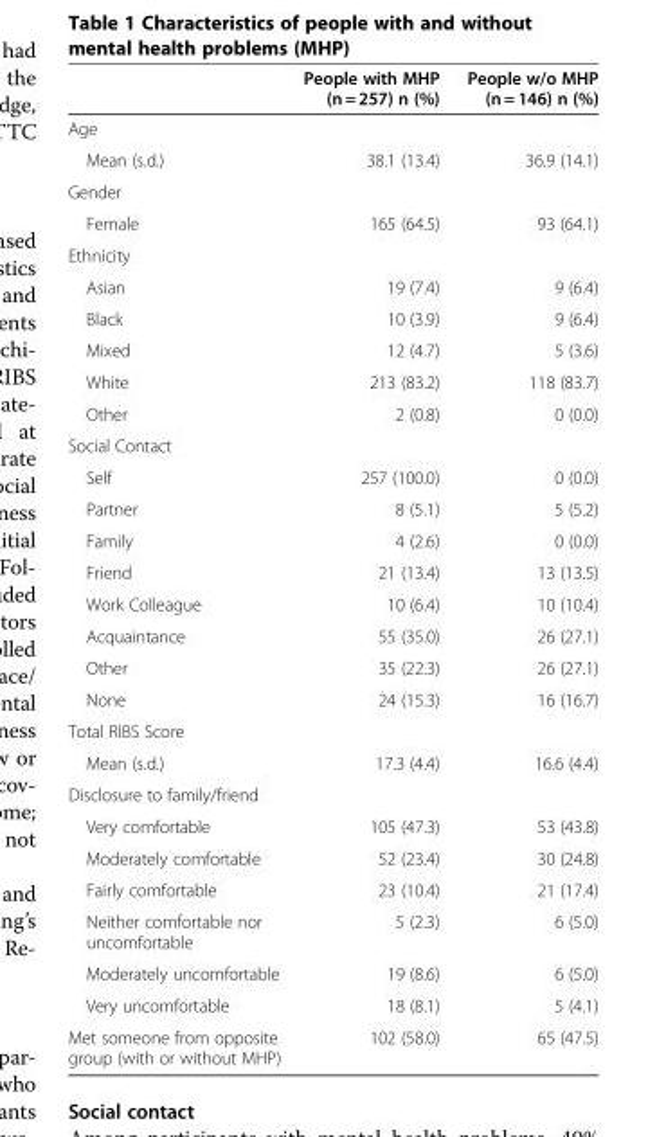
<table><thead><tr><td></td><td>People with MHP (n = 257) n (%)</td><td>People w/o MHP (n = 146) n (%)</td></tr></thead><tbody><tr><td colspan="3">Age</td></tr><tr><td>Mean (s.d.)</td><td>38.1 (13.4)</td><td>36.9 (14.1)</td></tr><tr><td colspan="3">Gender</td></tr><tr><td>Female</td><td>165 (64.5)</td><td>93 (64.1)</td></tr><tr><td colspan="3">Ethnicity</td></tr><tr><td>Asian</td><td>19 (7.4)</td><td>9 (6.4)</td></tr><tr><td>Black</td><td>10 (3.9)</td><td>9 (6.4)</td></tr><tr><td>Mixed</td><td>12 (4.7)</td><td>5 (3.6)</td></tr><tr><td>White</td><td>213 (83.2)</td><td>118 (83.7)</td></tr><tr><td>Other</td><td>2 (0.8)</td><td>0 (0.0)</td></tr><tr><td colspan="3">Social Contact</td></tr><tr><td>Self</td><td>257 (100.0)</td><td>0 (0.0)</td></tr><tr><td>Partner</td><td>8 (5.1)</td><td>5 (5.2)</td></tr><tr><td>Family</td><td>4 (2.6)</td><td>0 (0.0)</td></tr><tr><td>Friend</td><td>21 (13.4)</td><td>13 (13.5)</td></tr><tr><td>Work Colleague</td><td>10 (6.4)</td><td>10 (10.4)</td></tr><tr><td>Acquaintance</td><td>55 (35.0)</td><td>26 (27.1)</td></tr><tr><td>Other</td><td>35 (22.3)</td><td>26 (27.1)</td></tr><tr><td>None</td><td>24 (15.3)</td><td>16 (16.7)</td></tr><tr><td colspan="3">Total RIBS Score</td></tr><tr><td>Mean (s.d.)</td><td>17.3 (4.4)</td><td>16.6 (4.4)</td></tr><tr><td colspan="3">Disclosure to family/friend</td></tr><tr><td>Very comfortable</td><td>105 (47.3)</td><td>53 (43.8)</td></tr><tr><td>Moderately comfortable</td><td>52 (23.4)</td><td>30 (24.8)</td></tr><tr><td>Fairly comfortable</td><td>23 (10.4)</td><td>21 (17.4)</td></tr><tr><td>Neither comfortable nor uncomfortable</td><td>5 (2.3)</td><td>6 (5.0)</td></tr><tr><td>Moderately uncomfortable</td><td>19 (8.6)</td><td>6 (5.0)</td></tr><tr><td>Very uncomfortable</td><td>18 (8.1)</td><td>5 (4.1)</td></tr><tr><td>Met someone from opposite group (with or without MHP)</td><td>102 (58.0)</td><td>65 (47.5)</td></tr></tbody></table>